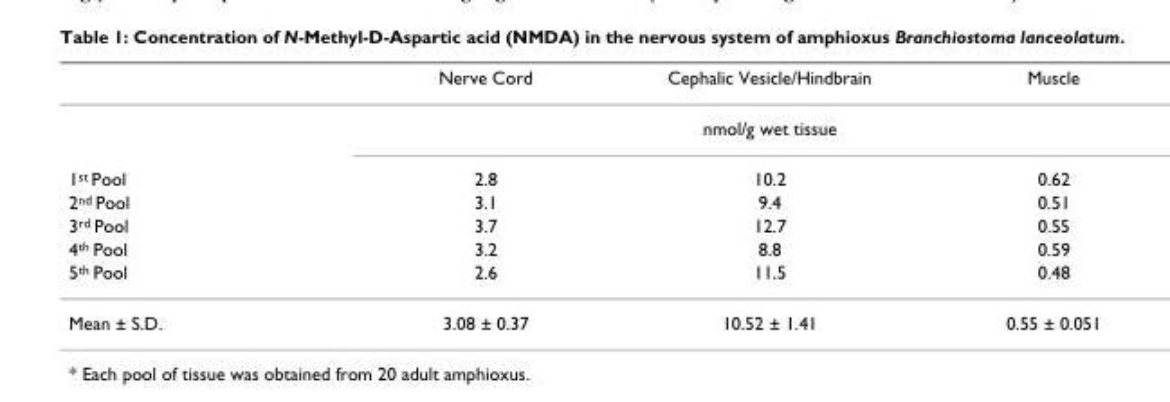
<table><thead><tr><td></td><td>Nerve Cord</td><td>Cephalic Vesicle/Hindbrain</td><td>Muscle</td></tr></thead><tbody><tr><td></td><td colspan="3">nmol/g wet tissue</td></tr><tr><td>1<sup>st</sup> Pool</td><td>2.8</td><td>10.2</td><td>0.62</td></tr><tr><td>2<sup>nd</sup> Pool</td><td>3.1</td><td>9.4</td><td>0.51</td></tr><tr><td>3<sup>rd</sup> Pool</td><td>3.7</td><td>12.7</td><td>0.55</td></tr><tr><td>4<sup>th</sup> Pool</td><td>3.2</td><td>8.8</td><td>0.59</td></tr><tr><td>5<sup>th</sup> Pool</td><td>2.6</td><td>11.5</td><td>0.48</td></tr><tr><td>Mean ± S.D.</td><td>3.08 ± 0.37</td><td>10.52 ± 1.41</td><td>0.55 ± 0.051</td></tr></tbody></table>